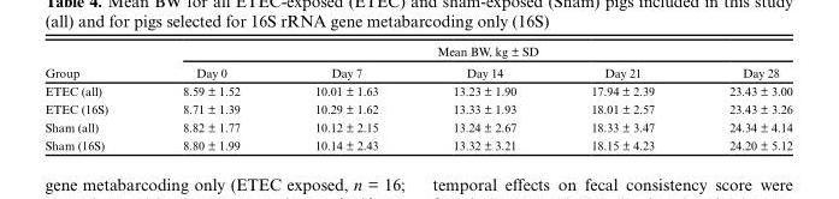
<table><thead><tr><td rowspan="2">Group</td><td colspan="5">Mean BW, kg ± SD</td></tr><tr><td>Day 0</td><td>Day 7</td><td>Day 14</td><td>Day 21</td><td>Day 28</td></tr></thead><tbody><tr><td>ETEC (all)</td><td>8.59 ± 1.52</td><td>10.01 ± 1.63</td><td>13.23 ± 1.90</td><td>17.94 ± 2.39</td><td>23.43 ± 3.00</td></tr><tr><td>ETEC (16S)</td><td>8.71 ± 1.39</td><td>10.29 ± 1.62</td><td>13.33 ± 1.93</td><td>18.01 ± 2.57</td><td>23.43 ± 3.26</td></tr><tr><td>Sham (all)</td><td>8.82 ± 1.77</td><td>10.12 ± 2.15</td><td>13.24 ± 2.67</td><td>18.33 ± 3.47</td><td>24.34 ± 4.14</td></tr><tr><td>Sham (16S)</td><td>8.80 ± 1.99</td><td>10.14 ± 2.43</td><td>13.32 ± 3.21</td><td>18.15 ± 4.23</td><td>24.20 ± 5.12</td></tr></tbody></table>